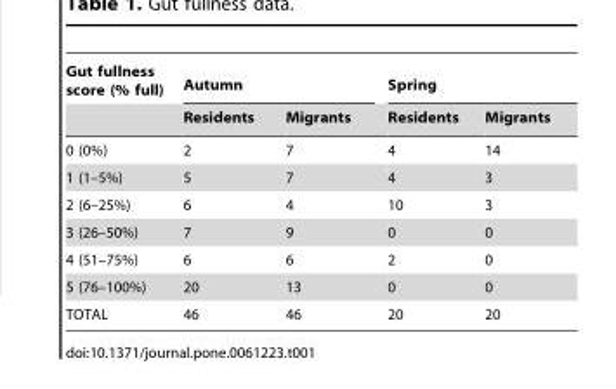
<table><thead><tr><td rowspan="2">Gut fullness score (% full)</td><td colspan="2">Autumn</td><td colspan="2">Spring</td></tr><tr><td>Residents</td><td>Migrants</td><td>Residents</td><td>Migrants</td></tr></thead><tbody><tr><td>0 (0%)</td><td>2</td><td>7</td><td>4</td><td>14</td></tr><tr><td>1 (1–5%)</td><td>5</td><td>7</td><td>4</td><td>3</td></tr><tr><td>2 (6–25%)</td><td>6</td><td>4</td><td>10</td><td>3</td></tr><tr><td>3 (26–50%)</td><td>7</td><td>9</td><td>0</td><td>0</td></tr><tr><td>4 (51–75%)</td><td>6</td><td>6</td><td>2</td><td>0</td></tr><tr><td>5 (76–100%)</td><td>20</td><td>13</td><td>0</td><td>0</td></tr><tr><td>TOTAL</td><td>46</td><td>46</td><td>20</td><td>20</td></tr></tbody></table>